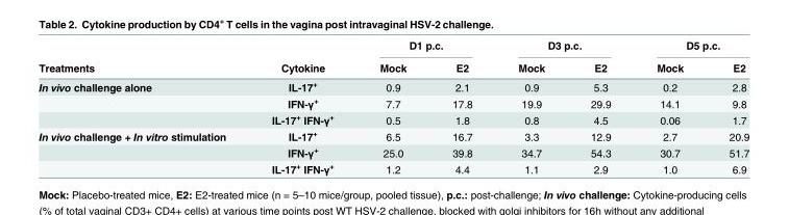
<table><thead><tr><td rowspan="2">Treatments</td><td rowspan="2">Cytokine</td><td colspan="2">D1 p.c.</td><td colspan="2">D3 p.c.</td><td colspan="2">D5 p.c.</td></tr><tr><td>Mock</td><td>E2</td><td>Mock</td><td>E2</td><td>Mock</td><td>E2</td></tr></thead><tbody><tr><td rowspan="3">In vivo challenge alone</td><td>IL-17<sup>+</sup></td><td>0.9</td><td>2.1</td><td>0.9</td><td>5.3</td><td>0.2</td><td>2.8</td></tr><tr><td>IFN-γ<sup>+</sup></td><td>7.7</td><td>17.8</td><td>19.9</td><td>29.9</td><td>14.1</td><td>9.8</td></tr><tr><td>IL-17<sup>+</sup> IFN-γ<sup>+</sup></td><td>0.5</td><td>1.8</td><td>0.8</td><td>4.5</td><td>0.06</td><td>1.7</td></tr><tr><td rowspan="3">In vivo challenge + In vitro stimulation</td><td>IL-17<sup>+</sup></td><td>6.5</td><td>16.7</td><td>3.3</td><td>12.9</td><td>2.7</td><td>20.9</td></tr><tr><td>IFN-γ<sup>+</sup></td><td>25.0</td><td>39.8</td><td>34.7</td><td>54.3</td><td>30.7</td><td>51.7</td></tr><tr><td>IL-17<sup>+</sup> IFN-γ<sup>+</sup></td><td>1.2</td><td>4.4</td><td>1.1</td><td>2.9</td><td>1.0</td><td>6.9</td></tr></tbody></table>